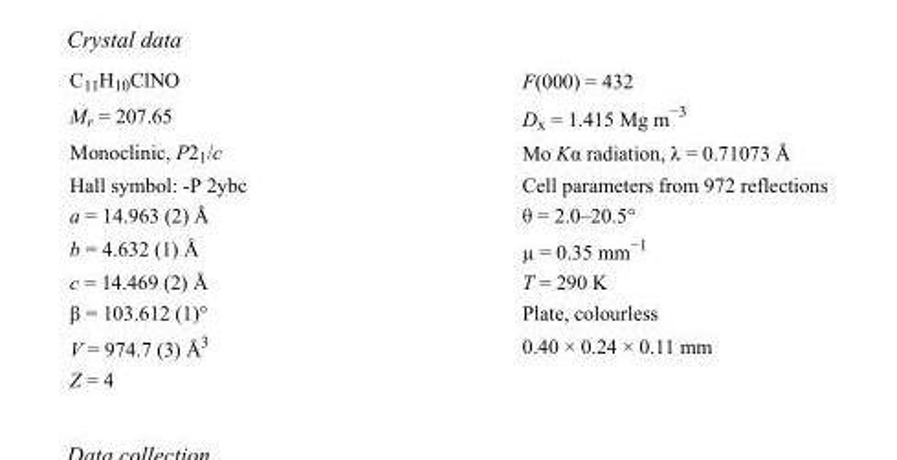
<table><tbody><tr><td>C<sub>11</sub>H<sub>10</sub>ClNO</td><td>F(000) = 432</td></tr><tr><td>M<sub>r</sub> = 207.65</td><td>D<sub>x</sub> = 1.415 Mg m<sup>−3</sup></td></tr><tr><td>Monoclinic, P2<sub>1</sub>/c</td><td>Mo Kα radiation, λ = 0.71073 Å</td></tr><tr><td>Hall symbol: -P 2ybc</td><td>Cell parameters from 972 reflections</td></tr><tr><td>a = 14.963 (2) Å</td><td>θ = 2.0–20.5°</td></tr><tr><td>b = 4.632 (1) Å</td><td>µ = 0.35 mm<sup>−1</sup></td></tr><tr><td>c = 14.469 (2) Å</td><td>T = 290 K</td></tr><tr><td>β = 103.612 (1)°</td><td>Plate, colourless</td></tr><tr><td>V = 974.7 (3) Å<sup>3</sup></td><td>0.40 × 0.24 × 0.11 mm</td></tr><tr><td>Z = 4</td><td></td></tr></tbody></table>